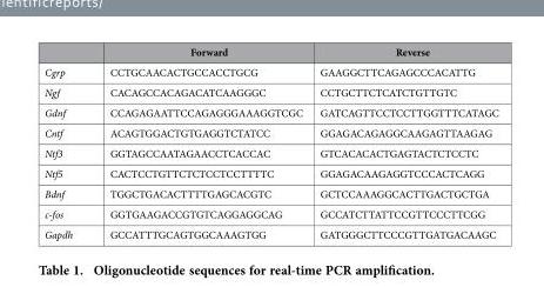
<table><thead><tr><td></td><td>Forward</td><td>Reverse</td></tr></thead><tbody><tr><td>Cgrp</td><td>CCTGCAACACTGCCACCTGCG</td><td>GAAGGCTTCAGAGCCCACATTG</td></tr><tr><td>Ngf</td><td>CACAGCCACAGACATCAAGGGC</td><td>CCTGCTTCTCATCTGTTGTC</td></tr><tr><td>Gdnf</td><td>CCAGAGAATTCCAGAGGGAAAGGTCGC</td><td>GATCAGTTCCTCCTTGGTTTCATAGC</td></tr><tr><td>Cntf</td><td>ACAGTGGACTGTGAGGTCTATCC</td><td>GGAGACAGAGGCAAGAGTTAAGAG</td></tr><tr><td>Ntf3</td><td>GGTAGCCAATAGAACCTCACCAC</td><td>GTCACACACTGAGTACTCTCCTC</td></tr><tr><td>Ntf5</td><td>CACTCCTGTTCTCTCCTCCTTTTC</td><td>GGAGACAAGAGGTCCCACTCAGG</td></tr><tr><td>Bdnf</td><td>TGGCTGACACTTTTGAGCACGTC</td><td>GCTCCAAAGGCACTTGACTGCTGA</td></tr><tr><td>c-fos</td><td>GGTGAAGACCGTGTCAGGAGGCAG</td><td>GCCATCTTATTCCGTTCCCTTCGG</td></tr><tr><td>Gapdh</td><td>GCCATTTGCAGTGGCAAAGTGG</td><td>GATGGGCTTCCCGTTGATGACAAGC</td></tr></tbody></table>